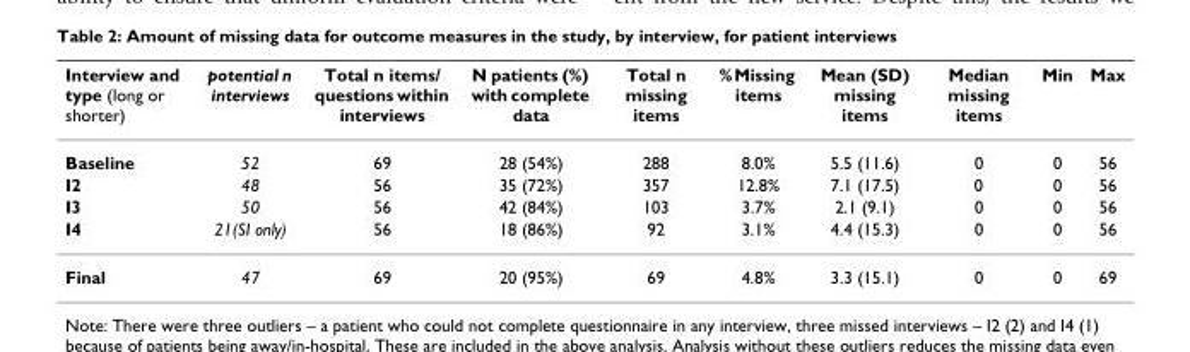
<table><thead><tr><td>Interview and type (long or shorter)</td><td>potential n interviews</td><td>Total n items/ questions within interviews</td><td>N patients (%) with complete data</td><td>Total n missing items</td><td>% Missing items</td><td>Mean (SD) missing items</td><td>Median missing items</td><td>Min</td><td>Max</td></tr></thead><tbody><tr><td>Baseline</td><td>52</td><td>69</td><td>28 (54%)</td><td>288</td><td>8.0%</td><td>5.5 (11.6)</td><td>0</td><td>0</td><td>56</td></tr><tr><td>I2</td><td>48</td><td>56</td><td>35 (72%)</td><td>357</td><td>12.8%</td><td>7.1 (17.5)</td><td>0</td><td>0</td><td>56</td></tr><tr><td>I3</td><td>50</td><td>56</td><td>42 (84%)</td><td>103</td><td>3.7%</td><td>2.1 (9.1)</td><td>0</td><td>0</td><td>56</td></tr><tr><td>I4</td><td>21(SI only)</td><td>56</td><td>18 (86%)</td><td>92</td><td>3.1%</td><td>4.4 (15.3)</td><td>0</td><td>0</td><td>56</td></tr><tr><td>Final</td><td>47</td><td>69</td><td>20 (95%)</td><td>69</td><td>4.8%</td><td>3.3 (15.1)</td><td>0</td><td>0</td><td>69</td></tr></tbody></table>